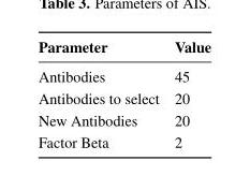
<table><thead><tr><td>Parameter</td><td>Value</td></tr></thead><tbody><tr><td>Antibodies</td><td>45</td></tr><tr><td>Antibodies to select</td><td>20</td></tr><tr><td>New Antibodies</td><td>20</td></tr><tr><td>Factor Beta</td><td>2</td></tr></tbody></table>